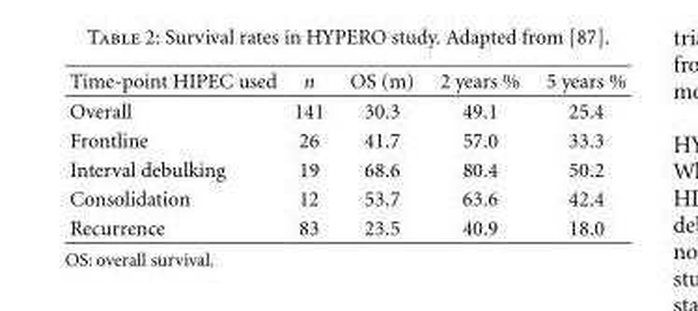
<table><thead><tr><td>Time-point HIPEC used</td><td>n</td><td>OS (m)</td><td>2 years %</td><td>5 years %</td></tr></thead><tbody><tr><td>Overall</td><td>141</td><td>30.3</td><td>49.1</td><td>25.4</td></tr><tr><td>Frontline</td><td>26</td><td>41.7</td><td>57.0</td><td>33.3</td></tr><tr><td>Interval debulking</td><td>19</td><td>68.6</td><td>80.4</td><td>50.2</td></tr><tr><td>Consolidation</td><td>12</td><td>53.7</td><td>63.6</td><td>42.4</td></tr><tr><td>Recurrence</td><td>83</td><td>23.5</td><td>40.9</td><td>18.0</td></tr></tbody></table>